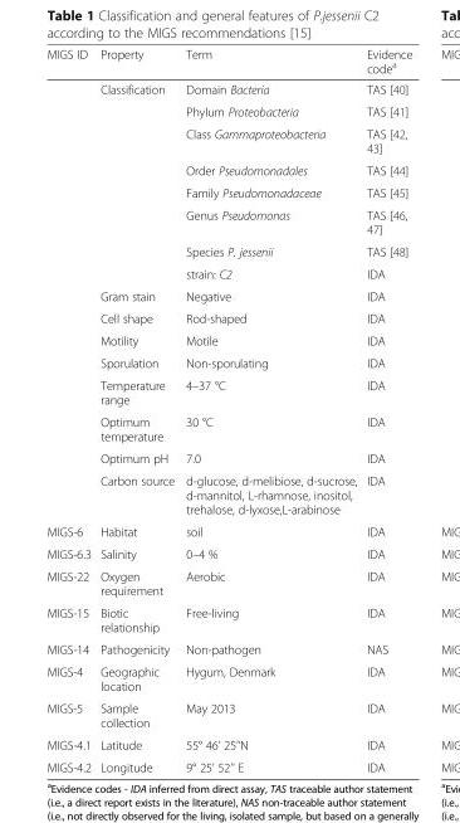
<table><thead><tr><td>MIGS ID</td><td>Property</td><td>Term</td><td>Evidence code<sup>a</sup></td></tr></thead><tbody><tr><td rowspan="16"></td><td rowspan="8">Classification</td><td>Domain Bacteria</td><td>TAS [40]</td></tr><tr><td>Phylum Proteobacteria</td><td>TAS [41]</td></tr><tr><td>Class Gammaproteobacteria</td><td>TAS [42, 43]</td></tr><tr><td>Order Pseudomonadales</td><td>TAS [44]</td></tr><tr><td>Family Pseudomonadaceae</td><td>TAS [45]</td></tr><tr><td>Genus Pseudomonas</td><td>TAS [46, 47]</td></tr><tr><td>Species P. jessenii</td><td>TAS [48]</td></tr><tr><td>strain: C2</td><td>IDA</td></tr><tr><td>Gram stain</td><td>Negative</td><td>IDA</td></tr><tr><td>Cell shape</td><td>Rod-shaped</td><td>IDA</td></tr><tr><td>Motility</td><td>Motile</td><td>IDA</td></tr><tr><td>Sporulation</td><td>Non-sporulating</td><td>IDA</td></tr><tr><td>Temperature range</td><td>4–37 °C</td><td>IDA</td></tr><tr><td>Optimum temperature</td><td>30 °C</td><td>IDA</td></tr><tr><td>Optimum pH</td><td>7.0</td><td>IDA</td></tr><tr><td>Carbon source</td><td>d-glucose, d-melibiose, d-sucrose, d-mannitol, L-rhamnose, inositol, trehalose, d-lyxose,L-arabinose</td><td>IDA</td></tr><tr><td>MIGS-6</td><td>Habitat</td><td>soil</td><td>IDA</td></tr><tr><td>MIGS-6.3</td><td>Salinity</td><td>0–4 %</td><td>IDA</td></tr><tr><td>MIGS-22</td><td>Oxygen requirement</td><td>Aerobic</td><td>IDA</td></tr><tr><td>MIGS-15</td><td>Biotic relationship</td><td>Free-living</td><td>IDA</td></tr><tr><td>MIGS-14</td><td>Pathogenicity</td><td>Non-pathogen</td><td>NAS</td></tr><tr><td>MIGS-4</td><td>Geographic location</td><td>Hygum, Denmark</td><td>IDA</td></tr><tr><td>MIGS-5</td><td>Sample collection</td><td>May 2013</td><td>IDA</td></tr><tr><td>MIGS-4.1</td><td>Latitude</td><td>55° 46’ 25’’N</td><td>IDA</td></tr><tr><td>MIGS-4.2</td><td>Longitude</td><td>9° 25’ 52’’ E</td><td>IDA</td></tr></tbody></table>